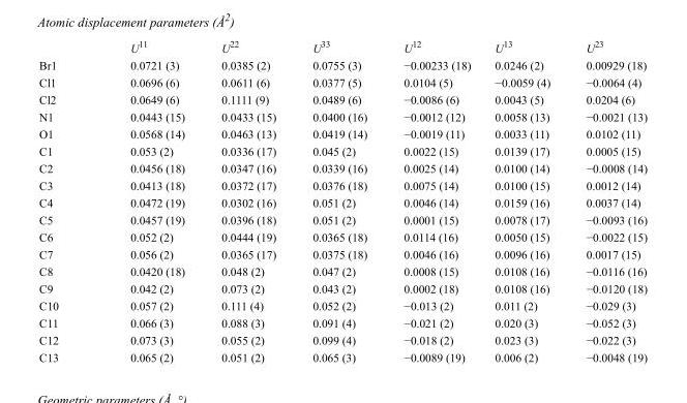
<table><thead><tr><td></td><td>U<sup>11</sup></td><td>U<sup>22</sup></td><td>U<sup>33</sup></td><td>U<sup>12</sup></td><td>U<sup>13</sup></td><td>U<sup>23</sup></td></tr></thead><tbody><tr><td>Br1</td><td>0.0721 (3)</td><td>0.0385 (2)</td><td>0.0755 (3)</td><td>−0.00233 (18)</td><td>0.0246 (2)</td><td>0.00929 (18)</td></tr><tr><td>Cl1</td><td>0.0696 (6)</td><td>0.0611 (6)</td><td>0.0377 (5)</td><td>0.0104 (5)</td><td>−0.0059 (4)</td><td>−0.0064 (4)</td></tr><tr><td>Cl2</td><td>0.0649 (6)</td><td>0.1111 (9)</td><td>0.0489 (6)</td><td>−0.0086 (6)</td><td>0.0043 (5)</td><td>0.0204 (6)</td></tr><tr><td>N1</td><td>0.0443 (15)</td><td>0.0433 (15)</td><td>0.0400 (16)</td><td>−0.0012 (12)</td><td>0.0058 (13)</td><td>−0.0021 (13)</td></tr><tr><td>O1</td><td>0.0568 (14)</td><td>0.0463 (13)</td><td>0.0419 (14)</td><td>−0.0019 (11)</td><td>0.0033 (11)</td><td>0.0102 (11)</td></tr><tr><td>C1</td><td>0.053 (2)</td><td>0.0336 (17)</td><td>0.045 (2)</td><td>0.0022 (15)</td><td>0.0139 (17)</td><td>0.0005 (15)</td></tr><tr><td>C2</td><td>0.0456 (18)</td><td>0.0347 (16)</td><td>0.0339 (16)</td><td>0.0025 (14)</td><td>0.0100 (14)</td><td>−0.0008 (14)</td></tr><tr><td>C3</td><td>0.0413 (18)</td><td>0.0372 (17)</td><td>0.0376 (18)</td><td>0.0075 (14)</td><td>0.0100 (15)</td><td>0.0012 (14)</td></tr><tr><td>C4</td><td>0.0472 (19)</td><td>0.0302 (16)</td><td>0.051 (2)</td><td>0.0046 (14)</td><td>0.0159 (16)</td><td>0.0037 (14)</td></tr><tr><td>C5</td><td>0.0457 (19)</td><td>0.0396 (18)</td><td>0.051 (2)</td><td>0.0001 (15)</td><td>0.0078 (17)</td><td>−0.0093 (16)</td></tr><tr><td>C6</td><td>0.052 (2)</td><td>0.0444 (19)</td><td>0.0365 (18)</td><td>0.0114 (16)</td><td>0.0050 (15)</td><td>−0.0022 (15)</td></tr><tr><td>C7</td><td>0.056 (2)</td><td>0.0365 (17)</td><td>0.0375 (18)</td><td>0.0046 (16)</td><td>0.0096 (16)</td><td>0.0017 (15)</td></tr><tr><td>C8</td><td>0.0420 (18)</td><td>0.048 (2)</td><td>0.047 (2)</td><td>0.0008 (15)</td><td>0.0108 (16)</td><td>−0.0116 (16)</td></tr><tr><td>C9</td><td>0.042 (2)</td><td>0.073 (2)</td><td>0.043 (2)</td><td>0.0002 (18)</td><td>0.0108 (16)</td><td>−0.0120 (18)</td></tr><tr><td>C10</td><td>0.057 (2)</td><td>0.111 (4)</td><td>0.052 (2)</td><td>−0.013 (2)</td><td>0.011 (2)</td><td>−0.029 (3)</td></tr><tr><td>C11</td><td>0.066 (3)</td><td>0.088 (3)</td><td>0.091 (4)</td><td>−0.021 (2)</td><td>0.020 (3)</td><td>−0.052 (3)</td></tr><tr><td>C12</td><td>0.073 (3)</td><td>0.055 (2)</td><td>0.099 (4)</td><td>−0.018 (2)</td><td>0.023 (3)</td><td>−0.022 (3)</td></tr><tr><td>C13</td><td>0.065 (2)</td><td>0.051 (2)</td><td>0.065 (3)</td><td>−0.0089 (19)</td><td>0.006 (2)</td><td>−0.0048 (19)</td></tr></tbody></table>